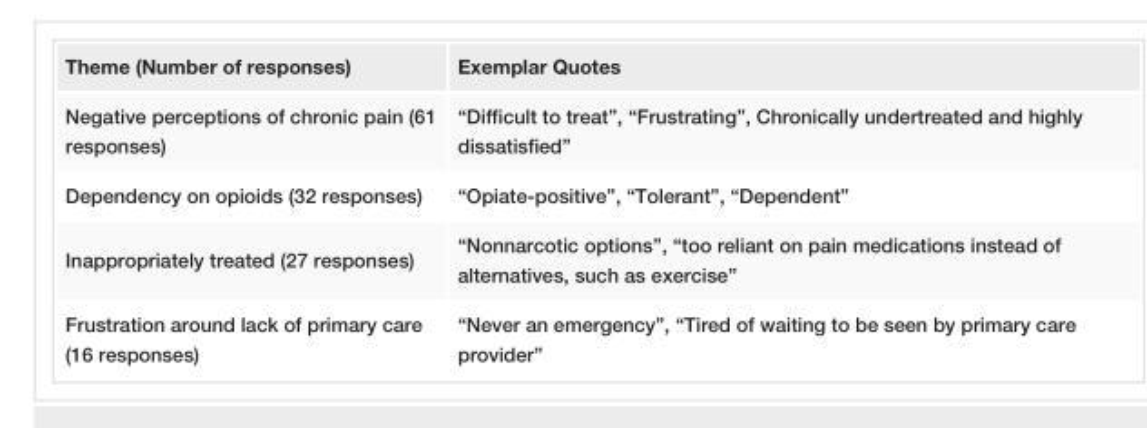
<table><tbody><tr><td>Theme (Number of responses)</td><td>Exemplar Quotes</td></tr><tr><td>Negative perceptions of chronic pain (61 responses)</td><td>“Difficult to treat”, “Frustrating”, Chronically undertreated and highly dissatisfied”</td></tr><tr><td>Dependency on opioids (32 responses)</td><td>“Opiate-positive”, “Tolerant”, “Dependent”</td></tr><tr><td>Inappropriately treated (27 responses)</td><td>“Nonnarcotic options”, “too reliant on pain medications instead of alternatives, such as exercise”</td></tr><tr><td>Frustration around lack of primary care (16 responses)</td><td>“Never an emergency”, “Tired of waiting to be seen by primary care provider”</td></tr></tbody></table>